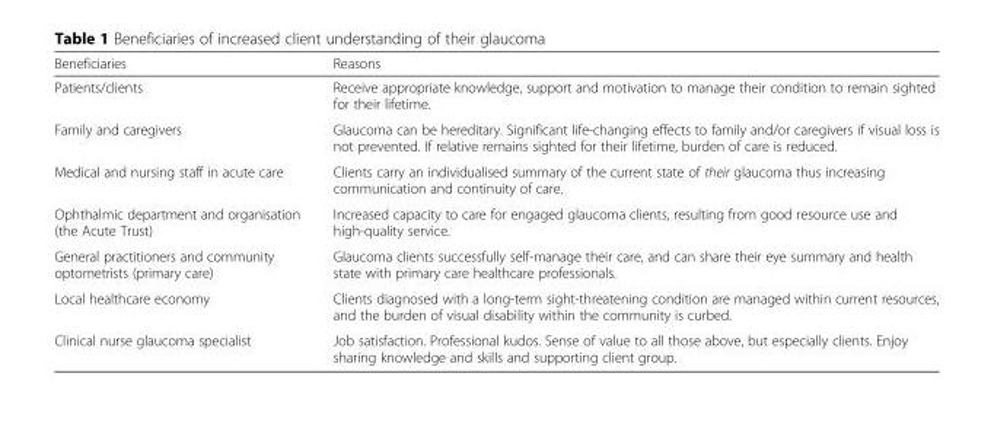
<table><thead><tr><td>Beneficiaries</td><td>Reasons</td></tr></thead><tbody><tr><td>Patients/clients</td><td>Receive appropriate knowledge, support and motivation to manage their condition to remain sighted for their lifetime.</td></tr><tr><td>Family and caregivers</td><td>Glaucoma can be hereditary. Significant life-changing effects to family and/or caregivers if visual loss is not prevented. If relative remains sighted for their lifetime, burden of care is reduced.</td></tr><tr><td>Medical and nursing staff in acute care</td><td>Clients carry an individualised summary of the current state of their glaucoma thus increasing communication and continuity of care.</td></tr><tr><td>Ophthalmic department and organisation (the Acute Trust)</td><td>Increased capacity to care for engaged glaucoma clients, resulting from good resource use and high-quality service.</td></tr><tr><td>General practitioners and community optometrists (primary care)</td><td>Glaucoma clients successfully self-manage their care, and can share their eye summary and health state with primary care healthcare professionals.</td></tr><tr><td>Local healthcare economy</td><td>Clients diagnosed with a long-term sight-threatening condition are managed within current resources, and the burden of visual disability within the community is curbed.</td></tr><tr><td>Clinical nurse glaucoma specialist</td><td>Job satisfaction. Professional kudos. Sense of value to all those above, but especially clients. Enjoy sharing knowledge and skills and supporting client group.</td></tr></tbody></table>